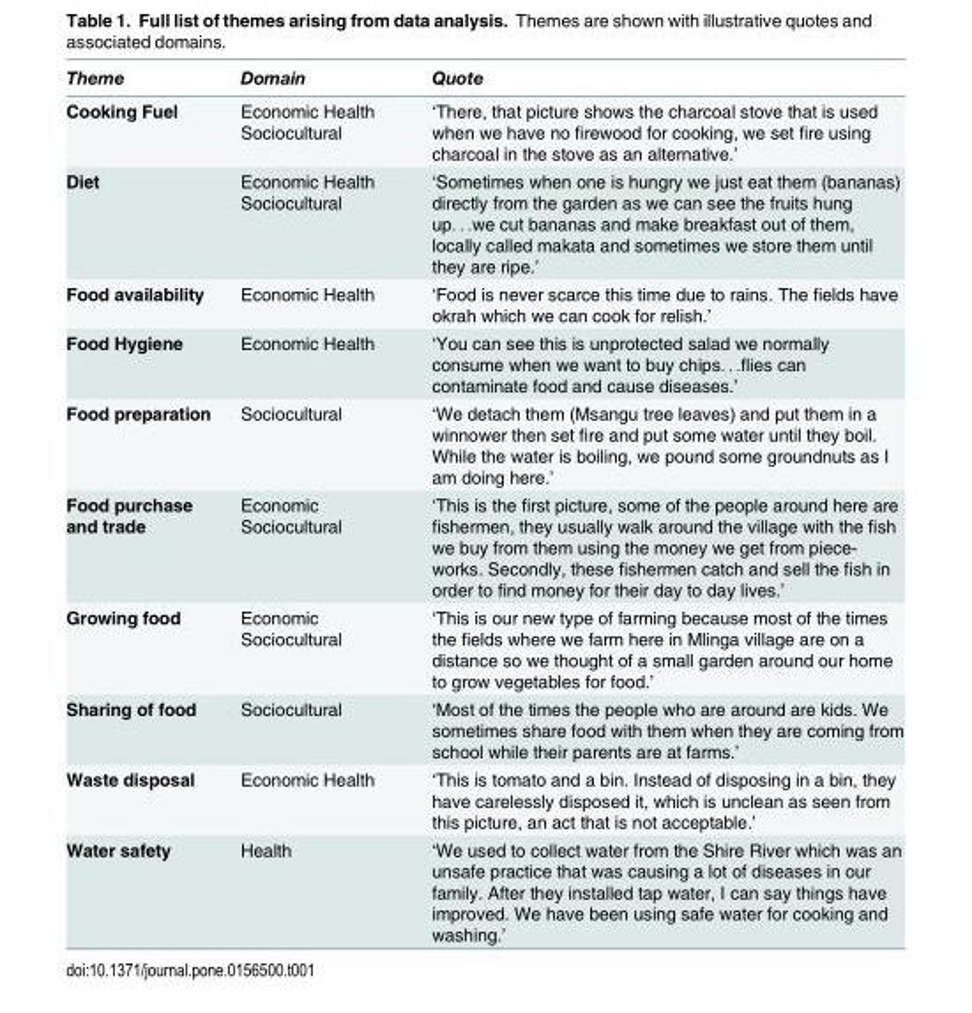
<table><thead><tr><td>Theme</td><td>Domain</td><td>Quote</td></tr></thead><tbody><tr><td>Cooking Fuel</td><td>Economic Health Sociocultural</td><td>‘There, that picture shows the charcoal stove that is used when we have no firewood for cooking, we set fire using charcoal in the stove as an alternative.’</td></tr><tr><td>Diet</td><td>Economic Health Sociocultural</td><td>‘Sometimes when one is hungry we just eat them (bananas) directly from the garden as we can see the fruits hung up. . .we cut bananas and make breakfast out of them, locally called makata and sometimes we store them until they are ripe.’</td></tr><tr><td>Food availability</td><td>Economic Health</td><td>‘Food is never scarce this time due to rains. The fields have okrah which we can cook for relish.’</td></tr><tr><td>Food Hygiene</td><td>Economic Health</td><td>‘You can see this is unprotected salad we normally consume when we want to buy chips. . .flies can contaminate food and cause diseases.’</td></tr><tr><td>Food preparation</td><td>Sociocultural</td><td>‘We detach them (Msangu tree leaves) and put them in a winnower then set fire and put some water until they boil. While the water is boiling, we pound some groundnuts as I am doing here.’</td></tr><tr><td>Food purchase and trade</td><td>Economic Sociocultural</td><td>‘This is the first picture, some of the people around here are fishermen, they usually walk around the village with the fish we buy from them using the money we get from piece- works. Secondly, these fishermen catch and sell the fish in order to find money for their day to day lives.’</td></tr><tr><td>Growing food</td><td>Economic Sociocultural</td><td>‘This is our new type of farming because most of the times the fields where we farm here in Mlinga village are on a distance so we thought of a small garden around our home to grow vegetables for food.’</td></tr><tr><td>Sharing of food</td><td>Sociocultural</td><td>‘Most of the times the people who are around are kids. We sometimes share food with them when they are coming from school while their parents are at farms.’</td></tr><tr><td>Waste disposal</td><td>Economic Health</td><td>‘This is tomato and a bin. Instead of disposing in a bin, they have carelessly disposed it, which is unclean as seen from this picture, an act that is not acceptable.’</td></tr><tr><td>Water safety</td><td>Health</td><td>‘We used to collect water from the Shire River which was an unsafe practice that was causing a lot of diseases in our family. After they installed tap water, I can say things have improved. We have been using safe water for cooking and washing.’</td></tr></tbody></table>